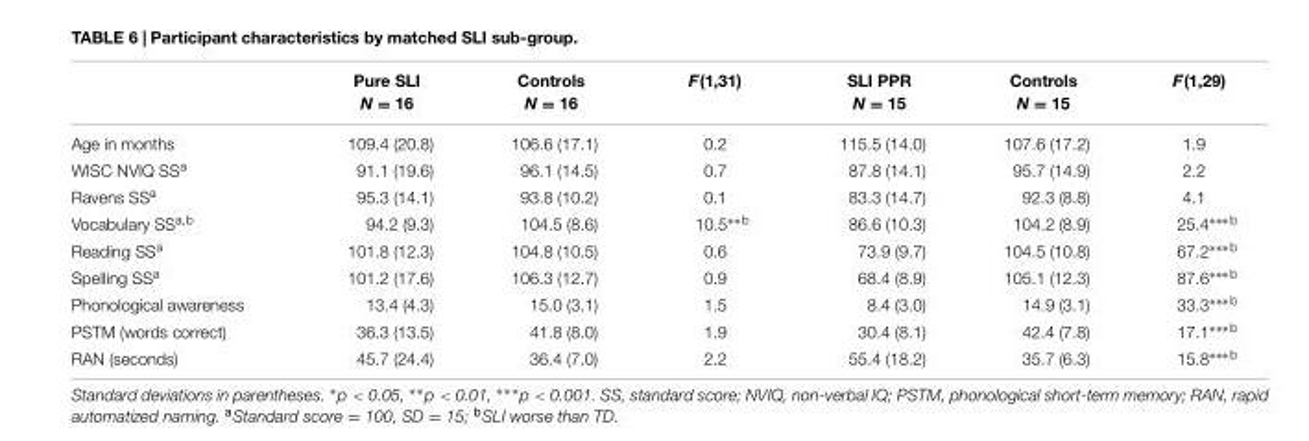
<table><thead><tr><td></td><td>Pure SLI N = 16</td><td>Controls N = 16</td><td>F(1,31)</td><td>SLI PPR N = 15</td><td>Controls N = 15</td><td>F(1,29)</td></tr></thead><tbody><tr><td>Age in months</td><td>109.4 (20.8)</td><td>106.6 (17.1)</td><td>0.2</td><td>115.5 (14.0)</td><td>107.6 (17.2)</td><td>1.9</td></tr><tr><td>WISC NVIQ SS<sup>a</sup></td><td>91.1 (19.6)</td><td>96.1 (14.5)</td><td>0.7</td><td>87.8 (14.1)</td><td>95.7 (14.9)</td><td>2.2</td></tr><tr><td>Ravens SS<sup>a</sup></td><td>95.3 (14.1)</td><td>93.8 (10.2)</td><td>0.1</td><td>83.3 (14.7)</td><td>92.3 (8.8)</td><td>4.1</td></tr><tr><td>Vocabulary SS<sup>a,b</sup></td><td>94.2 (9.3)</td><td>104.5 (8.6)</td><td>10.5<sup>∗∗b</sup></td><td>86.6 (10.3)</td><td>104.2 (8.9)</td><td>25.4<sup>∗∗∗b</sup></td></tr><tr><td>Reading SS<sup>a</sup></td><td>101.8 (12.3)</td><td>104.8 (10.5)</td><td>0.6</td><td>73.9 (9.7)</td><td>104.5 (10.8)</td><td>67.2<sup>∗∗∗b</sup></td></tr><tr><td>Spelling SS<sup>a</sup></td><td>101.2 (17.6)</td><td>106.3 (12.7)</td><td>0.9</td><td>68.4 (8.9)</td><td>105.1 (12.3)</td><td>87.6<sup>∗∗∗b</sup></td></tr><tr><td>Phonological awareness</td><td>13.4 (4.3)</td><td>15.0 (3.1)</td><td>1.5</td><td>8.4 (3.0)</td><td>14.9 (3.1)</td><td>33.3<sup>∗∗∗b</sup></td></tr><tr><td>PSTM (words correct)</td><td>36.3 (13.5)</td><td>41.8 (8.0)</td><td>1.9</td><td>30.4 (8.1)</td><td>42.4 (7.8)</td><td>17.1<sup>∗∗∗b</sup></td></tr><tr><td>RAN (seconds)</td><td>45.7 (24.4)</td><td>36.4 (7.0)</td><td>2.2</td><td>55.4 (18.2)</td><td>35.7 (6.3)</td><td>15.8<sup>∗∗∗b</sup></td></tr></tbody></table>